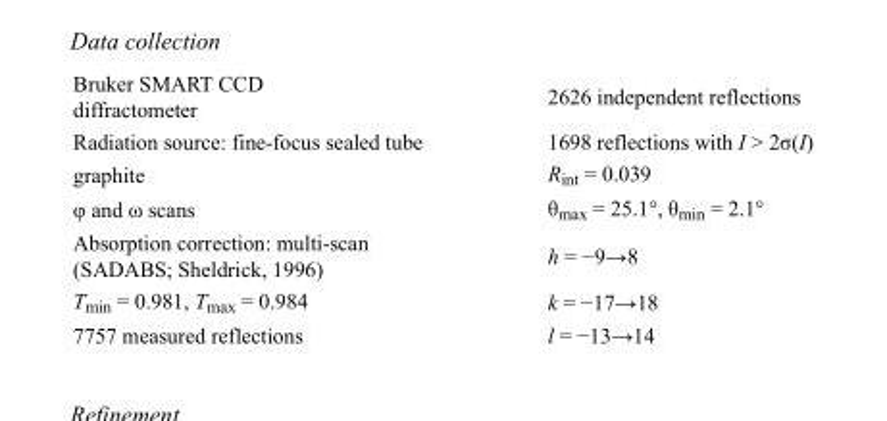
<table><tbody><tr><td>Bruker SMART CCD diffractometer</td><td>2626 independent reflections</td></tr><tr><td>Radiation source: fine-focus sealed tube</td><td>1698 reflections with I &gt; 2σ(I)</td></tr><tr><td>graphite</td><td>R<sub>int</sub> = 0.039</td></tr><tr><td>φ and ω scans</td><td>θ<sub>max</sub> = 25.1°, θ<sub>min</sub> = 2.1°</td></tr><tr><td>Absorption correction: multi-scan (SADABS; Sheldrick, 1996)</td><td>h = −9→8</td></tr><tr><td>T<sub>min</sub> = 0.981, T<sub>max</sub> = 0.984</td><td>k = −17→18</td></tr><tr><td>7757 measured reflections</td><td>l = −13→14</td></tr></tbody></table>